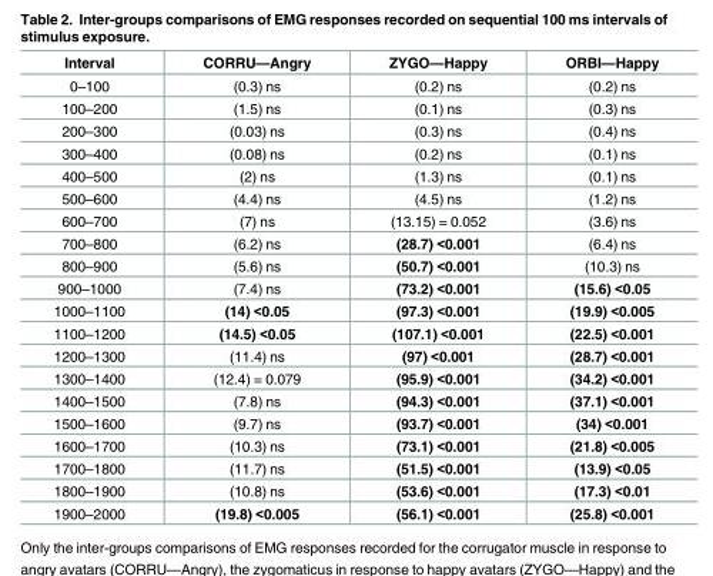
<table><thead><tr><td>Interval</td><td>CORRU—Angry</td><td>ZYGO—Happy</td><td>ORBI—Happy</td></tr></thead><tbody><tr><td>0–100</td><td>(0.3) ns</td><td>(0.2) ns</td><td>(0.2) ns</td></tr><tr><td>100–200</td><td>(1.5) ns</td><td>(0.1) ns</td><td>(0.3) ns</td></tr><tr><td>200–300</td><td>(0.03) ns</td><td>(0.3) ns</td><td>(0.4) ns</td></tr><tr><td>300–400</td><td>(0.08) ns</td><td>(0.2) ns</td><td>(0.1) ns</td></tr><tr><td>400–500</td><td>(2) ns</td><td>(1.3) ns</td><td>(0.1) ns</td></tr><tr><td>500–600</td><td>(4.4) ns</td><td>(4.5) ns</td><td>(1.2) ns</td></tr><tr><td>600–700</td><td>(7) ns</td><td>(13.15) = 0.052</td><td>(3.6) ns</td></tr><tr><td>700–800</td><td>(6.2) ns</td><td>(28.7) &lt;0.001</td><td>(6.4) ns</td></tr><tr><td>800–900</td><td>(5.6) ns</td><td>(50.7) &lt;0.001</td><td>(10.3) ns</td></tr><tr><td>900–1000</td><td>(7.4) ns</td><td>(73.2) &lt;0.001</td><td>(15.6) &lt;0.05</td></tr><tr><td>1000–1100</td><td>(14) &lt;0.05</td><td>(97.3) &lt;0.001</td><td>(19.9) &lt;0.005</td></tr><tr><td>1100–1200</td><td>(14.5) &lt;0.05</td><td>(107.1) &lt;0.001</td><td>(22.5) &lt;0.001</td></tr><tr><td>1200–1300</td><td>(11.4) ns</td><td>(97) &lt;0.001</td><td>(28.7) &lt;0.001</td></tr><tr><td>1300–1400</td><td>(12.4) = 0.079</td><td>(95.9) &lt;0.001</td><td>(34.2) &lt;0.001</td></tr><tr><td>1400–1500</td><td>(7.8) ns</td><td>(94.3) &lt;0.001</td><td>(37.1) &lt;0.001</td></tr><tr><td>1500–1600</td><td>(9.7) ns</td><td>(93.7) &lt;0.001</td><td>(34) &lt;0.001</td></tr><tr><td>1600–1700</td><td>(10.3) ns</td><td>(73.1) &lt;0.001</td><td>(21.8) &lt;0.005</td></tr><tr><td>1700–1800</td><td>(11.7) ns</td><td>(51.5) &lt;0.001</td><td>(13.9) &lt;0.05</td></tr><tr><td>1800–1900</td><td>(10.8) ns</td><td>(53.6) &lt;0.001</td><td>(17.3) &lt;0.01</td></tr><tr><td>1900–2000</td><td>(19.8) &lt;0.005</td><td>(56.1) &lt;0.001</td><td>(25.8) &lt;0.001</td></tr></tbody></table>